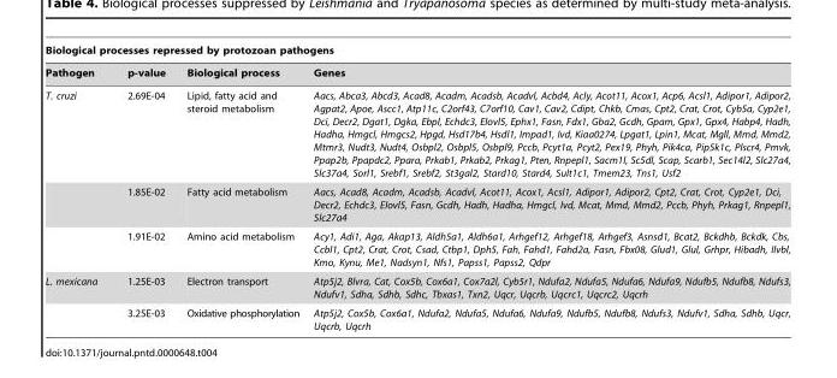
<table><thead><tr><td colspan="4">Biological processes repressed by protozoan pathogens</td></tr><tr><td>Pathogen</td><td>p-value</td><td>Biological process</td><td>Genes</td></tr></thead><tbody><tr><td rowspan="3">T. cruzi</td><td>2.69E-04</td><td>Lipid, fatty acid and steroid metabolism</td><td>Aacs, Abca3, Abcd3, Acad8, Acadm, Acadsb, Acadvl, Acbd4, Acly, Acot11, Acox1, Acp6, Acsl1, Adipor1, Adipor2, Agpat2, Apoe, Ascc1, Atp11c, C2orf43, C7orf10, Cav1, Cav2, Cdipt, Chkb, Cmas, Cpt2, Crat, Crot, Cyb5a, Cyp2e1, Dci, Decr2, Dgat1, Dgka, Ebpl, Echdc3, Elovl5, Ephx1, Fasn, Fdx1, Gba2, Gcdh, Gpam, Gpx1, Gpx4, Habp4, Hadh, Hadha, Hmgcl, Hmgcs2, Hpgd, Hsd17b4, Hsdl1, Impad1, Ivd, Kiaa0274, Lpgat1, Lpin1, Mcat, Mgll, Mmd, Mmd2, Mtmr3, Nudt3, Nudt4, Osbpl2, Osbpl5, Osbpl9, Pccb, Pcyt1a, Pcyt2, Pex19, Phyh, Pik4ca, Pip5k1c, Plscr4, Pmvk, Ppap2b, Ppapdc2, Ppara, Prkab1, Prkab2, Prkag1, Pten, Rnpepl1, Sacm1l, Sc5dl, Scap, Scarb1, Sec14l2, Slc27a4, Slc37a4, Sorl1, Srebf1, Srebf2, St3gal2, Stard10, Stard4, Sult1c1, Tmem23, Tns1, Usf2</td></tr><tr><td>1.85E-02</td><td>Fatty acid metabolism</td><td>Aacs, Acad8, Acadm, Acadsb, Acadvl, Acot11, Acox1, Acsl1, Adipor1, Adipor2, Cpt2, Crat, Crot, Cyp2e1, Dci, Decr2, Echdc3, Elovl5, Fasn, Gcdh, Hadh, Hadha, Hmgcl, Ivd, Mcat, Mmd, Mmd2, Pccb, Phyh, Prkag1, Rnpepl1, Slc27a4</td></tr><tr><td>1.91E-02</td><td>Amino acid metabolism</td><td>Acy1, Adi1, Aga, Akap13, Aldh5a1, Aldh6a1, Arhgef12, Arhgef18, Arhgef3, Asnsd1, Bcat2, Bckdhb, Bckdk, Cbs, Ccbl1, Cpt2, Crat, Crot, Csad, Ctbp1, Dph5, Fah, Fahd1, Fahd2a, Fasn, Fbx08, Glud1, Glul, Grhpr, Hibadh, Ilvbl, Kmo, Kynu, Me1, Nadsyn1, Nfs1, Papss1, Papss2, Qdpr</td></tr><tr><td rowspan="2">L. mexicana</td><td>1.25E-03</td><td>Electron transport</td><td>Atp5j2, Blvra, Cat, Cox5b, Cox6a1, Cox7a2l, Cyb5r1, Ndufa2, Ndufa5, Ndufa6, Ndufa9, Ndufb5, Ndufb8, Ndufs3, Ndufv1, Sdha, Sdhb, Sdhc, Tbxas1, Txn2, Uqcr, Uqcrb, Uqcrc1, Uqcrc2, Uqcrh</td></tr><tr><td>3.25E-03</td><td>Oxidative phosphorylation</td><td>Atp5j2, Cox5b, Cox6a1, Ndufa2, Ndufa5, Ndufa6, Ndufa9, Ndufb5, Ndufb8, Ndufs3, Ndufv1, Sdha, Sdhb, Uqcr, Uqcrb, Uqcrh</td></tr></tbody></table>